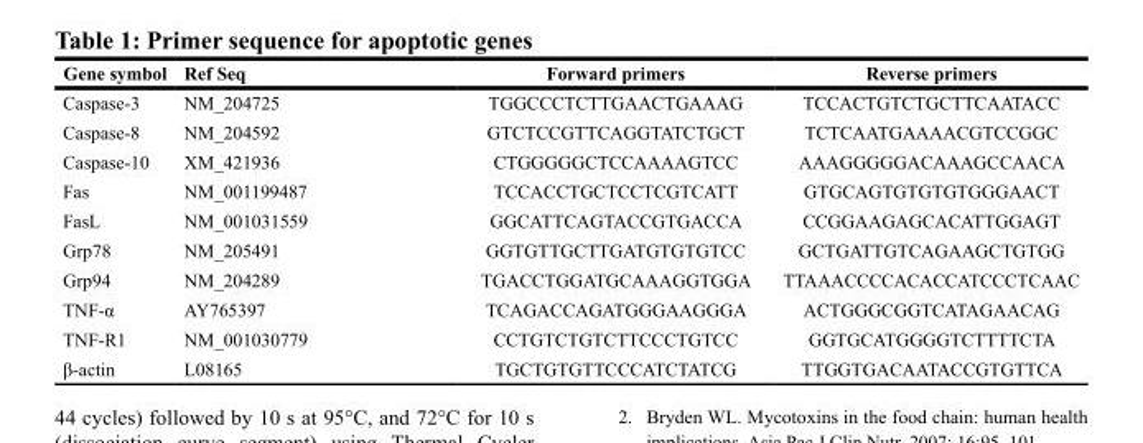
<table><thead><tr><td>Gene symbol</td><td>Ref Seq</td><td>Forward primers</td><td>Reverse primers</td></tr></thead><tbody><tr><td>Caspase3</td><td>NM_204725</td><td>TGGCCCTCTTGAACTGAAAG</td><td>TCCACTGTCTGCTTCAATACC</td></tr><tr><td>Caspase8</td><td>NM_204592</td><td>GTCTCCGTTCAGGTATCTGCT</td><td>TCTCAATGAAAACGTCCGGC</td></tr><tr><td>Caspase10</td><td>XM_421936</td><td>CTGGGGGCTCCAAAAGTCC</td><td>AAAGGGGGACAAAGCCAACA</td></tr><tr><td>Fas</td><td>NM_001199487</td><td>TCCACCTGCTCCTCGTCATT</td><td>GTGCAGTGTGTGTGGGAACT</td></tr><tr><td>FasL</td><td>NM_001031559</td><td>GGCATTCAGTACCGTGACCA</td><td>CCGGAAGAGCACATTGGAGT</td></tr><tr><td>Grp78</td><td>NM_205491</td><td>GGTGTTGCTTGATGTGTGTCC</td><td>GCTGATTGTCAGAAGCTGTGG</td></tr><tr><td>Grp94</td><td>NM_204289</td><td>TGACCTGGATGCAAAGGTGGA</td><td>TTAAACCCCACACCATCCCTCAAC</td></tr><tr><td>TNFα</td><td>AY765397</td><td>TCAGACCAGATGGGAAGGGA</td><td>ACTGGGCGGTCATAGAACAG</td></tr><tr><td>TNFR1</td><td>NM_001030779</td><td>CCTGTCTGTCTTCCCTGTCC</td><td>GGTGCATGGGGTCTTTTCTA</td></tr><tr><td>βactin</td><td>L08165</td><td>TGCTGTGTTCCCATCTATCG</td><td>TTGGTGACAATACCGTGTTCA</td></tr></tbody></table>